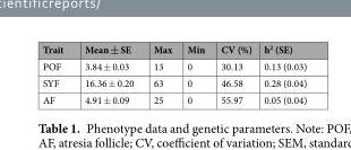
<table><thead><tr><td>Trait</td><td>Mean ± SE</td><td>Max</td><td>Min</td><td>CV (%)</td><td>h<sup>2</sup> (SE)</td></tr></thead><tbody><tr><td>POF</td><td>3.84 ± 0.03</td><td>13</td><td>0</td><td>30.13</td><td>0.13 (0.03)</td></tr><tr><td>SYF</td><td>16.36 ± 0.20</td><td>63</td><td>0</td><td>46.58</td><td>0.28 (0.04)</td></tr><tr><td>AF</td><td>4.91 ± 0.09</td><td>25</td><td>0</td><td>55.97</td><td>0.05 (0.04)</td></tr></tbody></table>